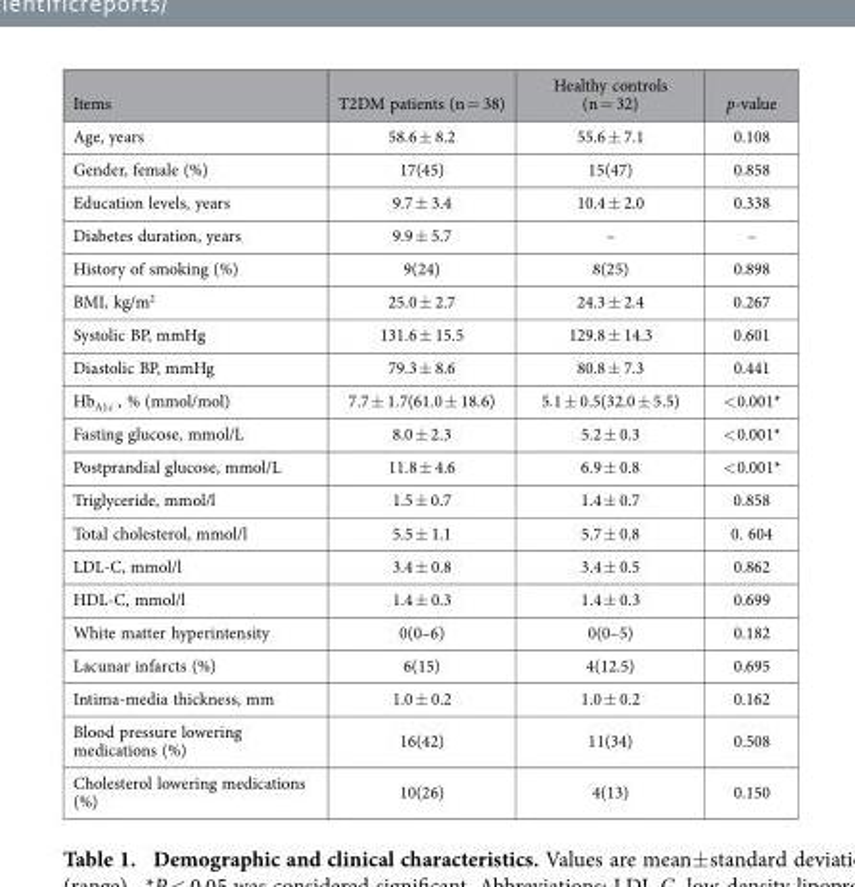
<table><thead><tr><td>Items</td><td>T2DM patients (n = 38)</td><td>Healthy controls (n = 32)</td><td>p-value</td></tr></thead><tbody><tr><td>Age, years</td><td>58.6 ± 8.2</td><td>55.6 ± 7.1</td><td>0.108</td></tr><tr><td>Gender, female (%)</td><td>17(45)</td><td>15(47)</td><td>0.858</td></tr><tr><td>Education levels, years</td><td>9.7 ± 3.4</td><td>10.4 ± 2.0</td><td>0.338</td></tr><tr><td>Diabetes duration, years</td><td>9.9 ± 5.7</td><td>–</td><td>–</td></tr><tr><td>History of smoking (%)</td><td>9(24)</td><td>8(25)</td><td>0.898</td></tr><tr><td>BMI, kg/m<sup>2</sup></td><td>25.0 ± 2.7</td><td>24.3 ± 2.4</td><td>0.267</td></tr><tr><td>Systolic BP, mmHg</td><td>131.6 ± 15.5</td><td>129.8 ± 14.3</td><td>0.601</td></tr><tr><td>Diastolic BP, mmHg</td><td>79.3 ± 8.6</td><td>80.8 ± 7.3</td><td>0.441</td></tr><tr><td>Hb<sub>A1c</sub> , % (mmol/mol)</td><td>7.7 ± 1.7(61.0 ± 18.6)</td><td>5.1 ± 0.5(32.0 ± 5.5)</td><td>&lt; 0.001*</td></tr><tr><td>Fasting glucose, mmol/L</td><td>8.0 ± 2.3</td><td>5.2 ± 0.3</td><td>&lt; 0.001*</td></tr><tr><td>Postprandial glucose, mmol/L</td><td>11.8 ± 4.6</td><td>6.9 ± 0.8</td><td>&lt; 0.001*</td></tr><tr><td>Triglyceride, mmol/l</td><td>1.5 ± 0.7</td><td>1.4 ± 0.7</td><td>0.858</td></tr><tr><td>Total cholesterol, mmol/l</td><td>5.5 ± 1.1</td><td>5.7 ± 0.8</td><td>0. 604</td></tr><tr><td>LDL-C, mmol/l</td><td>3.4 ± 0.8</td><td>3.4 ± 0.5</td><td>0.862</td></tr><tr><td>HDL-C, mmol/l</td><td>1.4 ± 0.3</td><td>1.4 ± 0.3</td><td>0.699</td></tr><tr><td>White matter hyperintensity</td><td>0(0–6)</td><td>0(0–5)</td><td>0.182</td></tr><tr><td>Lacunar infarcts (%)</td><td>6(15)</td><td>4(12.5)</td><td>0.695</td></tr><tr><td>Intima-media thickness, mm</td><td>1.0 ± 0.2</td><td>1.0 ± 0.2</td><td>0.162</td></tr><tr><td>Blood pressure lowering medications (%)</td><td>16(42)</td><td>11(34)</td><td>0.508</td></tr><tr><td>Cholesterol lowering medications (%)</td><td>10(26)</td><td>4(13)</td><td>0.150</td></tr></tbody></table>